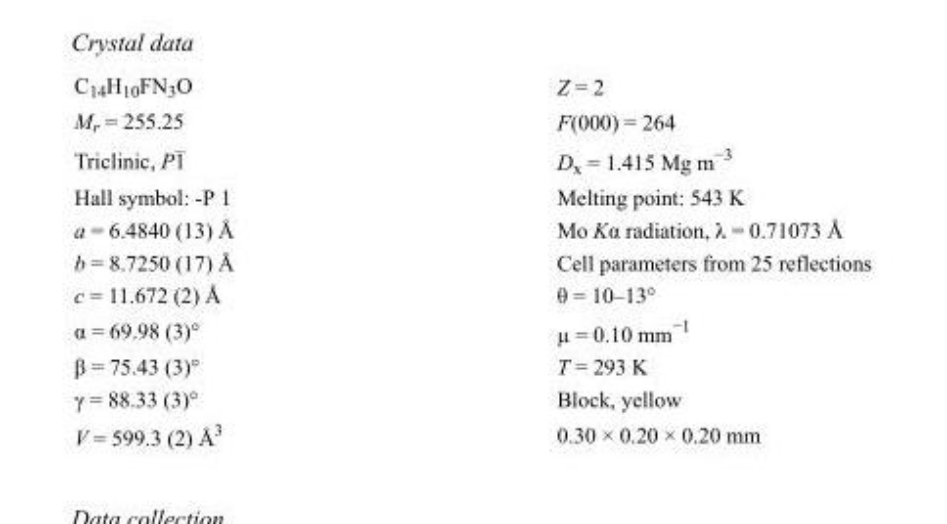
<table><tbody><tr><td>C<sub>14</sub>H<sub>10</sub>FN<sub>3</sub>O</td><td>Z = 2</td></tr><tr><td>M<sub>r</sub> = 255.25</td><td>F(000) = 264</td></tr><tr><td>Triclinic, P1</td><td>D<sub>x</sub> = 1.415 Mg m<sup>−3</sup></td></tr><tr><td>Hall symbol: -P 1</td><td>Melting point: 543 K</td></tr><tr><td>a = 6.4840 (13) Å</td><td>Mo Kα radiation, λ = 0.71073 Å</td></tr><tr><td>b = 8.7250 (17) Å</td><td>Cell parameters from 25 reflections</td></tr><tr><td>c = 11.672 (2) Å</td><td>θ = 10–13°</td></tr><tr><td>α = 69.98 (3)°</td><td>µ = 0.10 mm<sup>−1</sup></td></tr><tr><td>β = 75.43 (3)°</td><td>T = 293 K</td></tr><tr><td>γ = 88.33 (3)°</td><td>Block, yellow</td></tr><tr><td>V = 599.3 (2) Å<sup>3</sup></td><td>0.30 × 0.20 × 0.20 mm</td></tr></tbody></table>